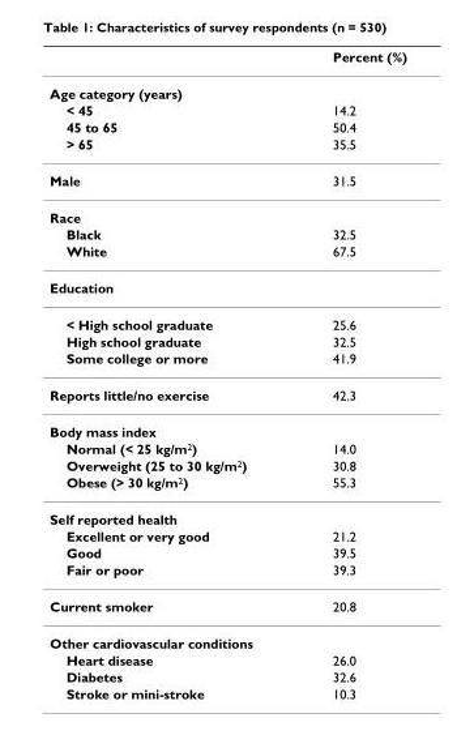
<table><thead><tr><td></td><td>Percent (%)</td></tr></thead><tbody><tr><td colspan="2">Age category (years)</td></tr><tr><td>&lt; 45</td><td>14.2</td></tr><tr><td>45 to 65</td><td>50.4</td></tr><tr><td>&gt; 65</td><td>35.5</td></tr><tr><td>Male</td><td>31.5</td></tr><tr><td colspan="2">Race</td></tr><tr><td>Black</td><td>32.5</td></tr><tr><td>White</td><td>67.5</td></tr><tr><td colspan="2">Education</td></tr><tr><td>&lt; High school graduate</td><td>25.6</td></tr><tr><td>High school graduate</td><td>32.5</td></tr><tr><td>Some college or more</td><td>41.9</td></tr><tr><td>Reports little/no exercise</td><td>42.3</td></tr><tr><td colspan="2">Body mass index</td></tr><tr><td>Normal (&lt; 25 kg/m2)</td><td>14.0</td></tr><tr><td>Overweight (25 to 30 kg/m2)</td><td>30.8</td></tr><tr><td>Obese (&gt; 30 kg/m2)</td><td>55.3</td></tr><tr><td colspan="2">Self reported health</td></tr><tr><td>Excellent or very good</td><td>21.2</td></tr><tr><td>Good</td><td>39.5</td></tr><tr><td>Fair or poor</td><td>39.3</td></tr><tr><td>Current smoker</td><td>20.8</td></tr><tr><td colspan="2">Other cardiovascular conditions</td></tr><tr><td>Heart disease</td><td>26.0</td></tr><tr><td>Diabetes</td><td>32.6</td></tr><tr><td>Stroke or mini-stroke</td><td>10.3</td></tr></tbody></table>